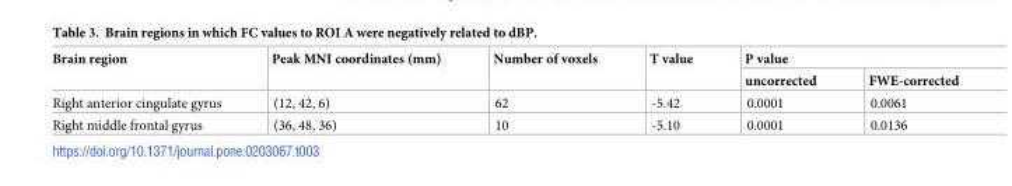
<table><thead><tr><td rowspan="2">Brain region</td><td rowspan="2">Peak MNI coordinates (mm)</td><td rowspan="2">Number of voxels</td><td rowspan="2">T value</td><td colspan="2">P value</td></tr><tr><td>uncorrected</td><td>FWE-corrected</td></tr></thead><tbody><tr><td>Right anterior cingulate gyrus</td><td>(12, 42, 6)</td><td>62</td><td>-5.42</td><td>0.0001</td><td>0.0061</td></tr><tr><td>Right middle frontal gyrus</td><td>(36, 48, 36)</td><td>10</td><td>-5.10</td><td>0.0001</td><td>0.0136</td></tr></tbody></table>